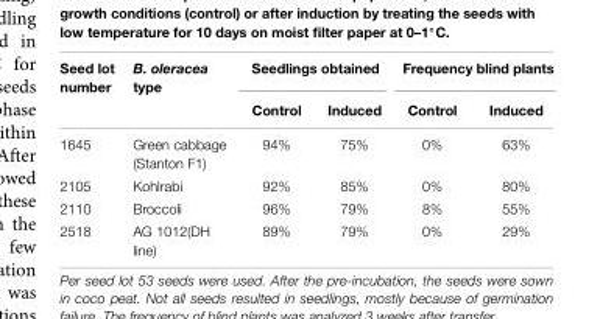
<table><thead><tr><td rowspan="2">Seed lot number</td><td rowspan="2">B. oleracea type</td><td colspan="2">Seedlings obtained</td><td colspan="2">Frequency blind plants</td></tr><tr><td>Control</td><td>Induced</td><td>Control</td><td>Induced</td></tr></thead><tbody><tr><td>1645</td><td>Green cabbage (Stanton F1)</td><td>94%</td><td>75%</td><td>0%</td><td>63%</td></tr><tr><td>2105</td><td>Kohlrabi</td><td>92%</td><td>85%</td><td>0%</td><td>80%</td></tr><tr><td>2110</td><td>Broccoli</td><td>96%</td><td>79%</td><td>8%</td><td>55%</td></tr><tr><td>2518</td><td>AG 1012(DH line)</td><td>89%</td><td>79%</td><td>0%</td><td>29%</td></tr></tbody></table>